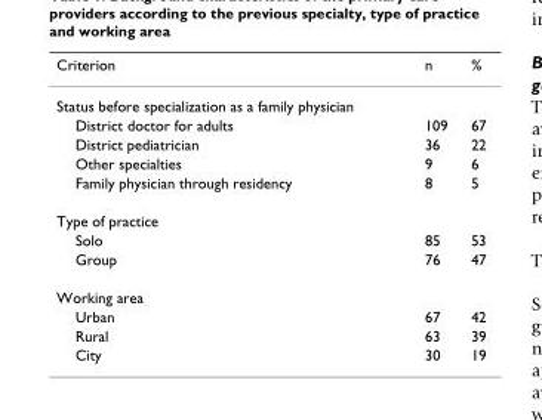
<table><thead><tr><td>Criterion</td><td>n</td><td>%</td></tr></thead><tbody><tr><td colspan="3">Status before specialization as a family physician</td></tr><tr><td>District doctor for adults</td><td>109</td><td>67</td></tr><tr><td>District pediatrician</td><td>36</td><td>22</td></tr><tr><td>Other specialties</td><td>9</td><td>6</td></tr><tr><td>Family physician through residency</td><td>8</td><td>5</td></tr><tr><td colspan="3">Type of practice</td></tr><tr><td>Solo</td><td>85</td><td>53</td></tr><tr><td>Group</td><td>76</td><td>47</td></tr><tr><td colspan="3">Working area</td></tr><tr><td>Urban</td><td>67</td><td>42</td></tr><tr><td>Rural</td><td>63</td><td>39</td></tr><tr><td>City</td><td>30</td><td>19</td></tr></tbody></table>